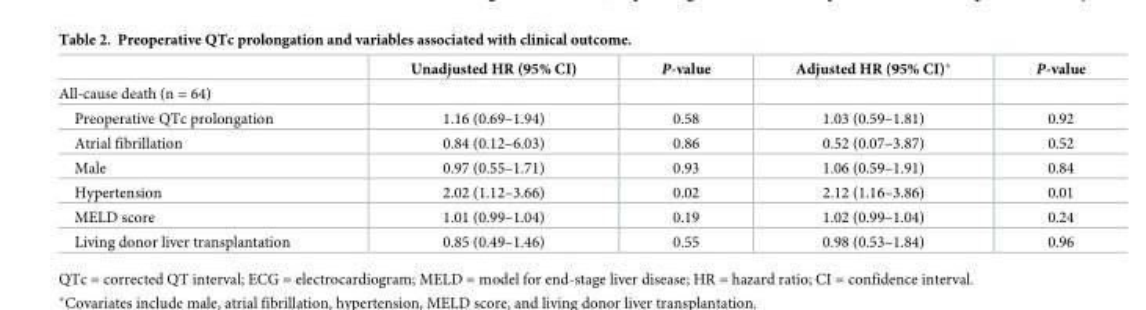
<table><thead><tr><td></td><td>Unadjusted HR (95% CI)</td><td>P-value</td><td>Adjusted HR (95% CI)*</td><td>P-value</td></tr></thead><tbody><tr><td colspan="5">All-cause death (n = 64)</td></tr><tr><td>Preoperative QTc prolongation</td><td>1.16 (0.69–1.94)</td><td>0.58</td><td>1.03 (0.59–1.81)</td><td>0.92</td></tr><tr><td>Atrial fibrillation</td><td>0.84 (0.12–6.03)</td><td>0.86</td><td>0.52 (0.07–3.87)</td><td>0.52</td></tr><tr><td>Male</td><td>0.97 (0.55–1.71)</td><td>0.93</td><td>1.06 (0.59–1.91)</td><td>0.84</td></tr><tr><td>Hypertension</td><td>2.02 (1.12–3.66)</td><td>0.02</td><td>2.12 (1.16–3.86)</td><td>0.01</td></tr><tr><td>MELD score</td><td>1.01 (0.99–1.04)</td><td>0.19</td><td>1.02 (0.99–1.04)</td><td>0.24</td></tr><tr><td>Living donor liver transplantation</td><td>0.85 (0.49–1.46)</td><td>0.55</td><td>0.98 (0.53–1.84)</td><td>0.96</td></tr></tbody></table>